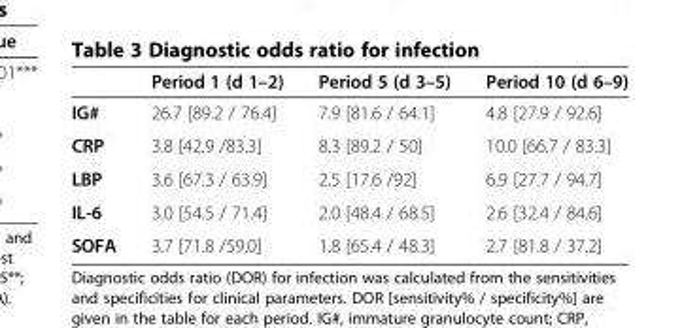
<table><thead><tr><td></td><td>Period 1 (d 1–2)</td><td>Period 5 (d 3–5)</td><td>Period 10 (d 6–9)</td></tr></thead><tbody><tr><td>IG#</td><td>26.7 [89.2 / 76.4]</td><td>7.9 [81.6 / 64.1]</td><td>4.8 [27.9 / 92.6]</td></tr><tr><td>CRP</td><td>3.8 [42.9 /83.3]</td><td>8.3 [89.2 / 50]</td><td>10.0 [66.7 / 83.3]</td></tr><tr><td>LBP</td><td>3.6 [67.3 / 63.9]</td><td>2.5 [17.6 /92]</td><td>6.9 [27.7 / 94.7]</td></tr><tr><td>IL-6</td><td>3.0 [54.5 / 71.4]</td><td>2.0 [48.4 / 68.5]</td><td>2.6 [32.4 / 84.6]</td></tr><tr><td>SOFA</td><td>3.7 [71.8 /59.0]</td><td>1.8 [65.4 / 48.3]</td><td>2.7 [81.8 / 37.2]</td></tr></tbody></table>